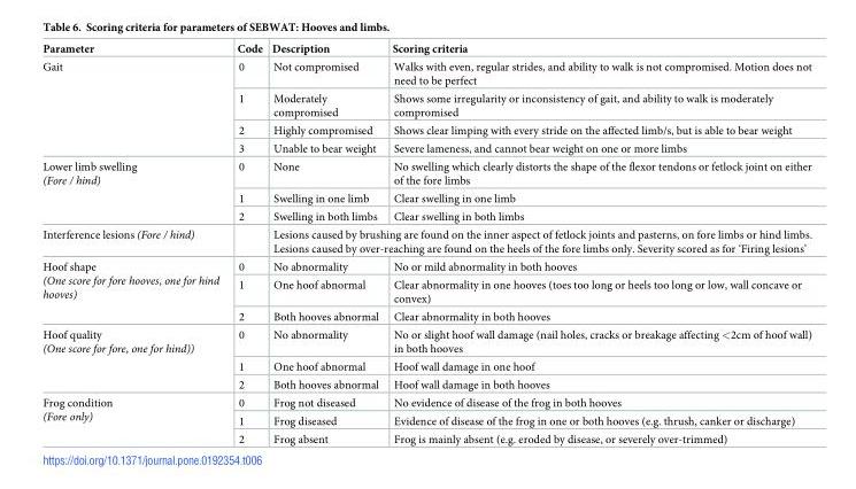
<table><thead><tr><td>Parameter</td><td>Code</td><td>Description</td><td>Scoring criteria</td></tr></thead><tbody><tr><td rowspan="4">Gait</td><td>0</td><td>Not compromised</td><td>Walks with even, regular strides, and ability to walk is not compromised. Motion does not need to be perfect</td></tr><tr><td>1</td><td>Moderately compromised</td><td>Shows some irregularity or inconsistency of gait, and ability to walk is moderately compromised</td></tr><tr><td>2</td><td>Highly compromised</td><td>Shows clear limping with every stride on the affected limb/s, but is able to bear weight</td></tr><tr><td>3</td><td>Unable to bear weight</td><td>Severe lameness, and cannot bear weight on one or more limbs</td></tr><tr><td rowspan="3">Lower limb swelling (Fore / hind)</td><td>0</td><td>None</td><td>No swelling which clearly distorts the shape of the flexor tendons or fetlock joint on either of the fore limbs</td></tr><tr><td>1</td><td>Swelling in one limb</td><td>Clear swelling in one limb</td></tr><tr><td>2</td><td>Swelling in both limbs</td><td>Clear swelling in both limbs</td></tr><tr><td>Interference lesions (Fore / hind)</td><td></td><td colspan="2">Lesions caused by brushing are found on the inner aspect of fetlock joints and pasterns, on fore limbs or hind limbs. Lesions caused by over-reaching are found on the heels of the fore limbs only. Severity scored as for ‘Firing lesions’</td></tr><tr><td rowspan="3">Hoof shape (One score for fore hooves, one for hind hooves)</td><td>0</td><td>No abnormality</td><td>No or mild abnormality in both hooves</td></tr><tr><td>1</td><td>One hoof abnormal</td><td>Clear abnormality in one hooves (toes too long or heels too long or low, wall concave or convex)</td></tr><tr><td>2</td><td>Both hooves abnormal</td><td>Clear abnormality in both hooves</td></tr><tr><td rowspan="3">Hoof quality (One score for fore, one for hind))</td><td>0</td><td>No abnormality</td><td>No or slight hoof wall damage (nail holes, cracks or breakage affecting &lt;2cm of hoof wall) in both hooves</td></tr><tr><td>1</td><td>One hoof abnormal</td><td>Hoof wall damage in one hoof</td></tr><tr><td>2</td><td>Both hooves abnormal</td><td>Hoof wall damage in both hooves</td></tr><tr><td rowspan="3">Frog condition (Fore only)</td><td>0</td><td>Frog not diseased</td><td>No evidence of disease of the frog in both hooves</td></tr><tr><td>1</td><td>Frog diseased</td><td>Evidence of disease of the frog in one or both hooves (e.g. thrush, canker or discharge)</td></tr><tr><td>2</td><td>Frog absent</td><td>Frog is mainly absent (e.g. eroded by disease, or severely over-trimmed)</td></tr></tbody></table>